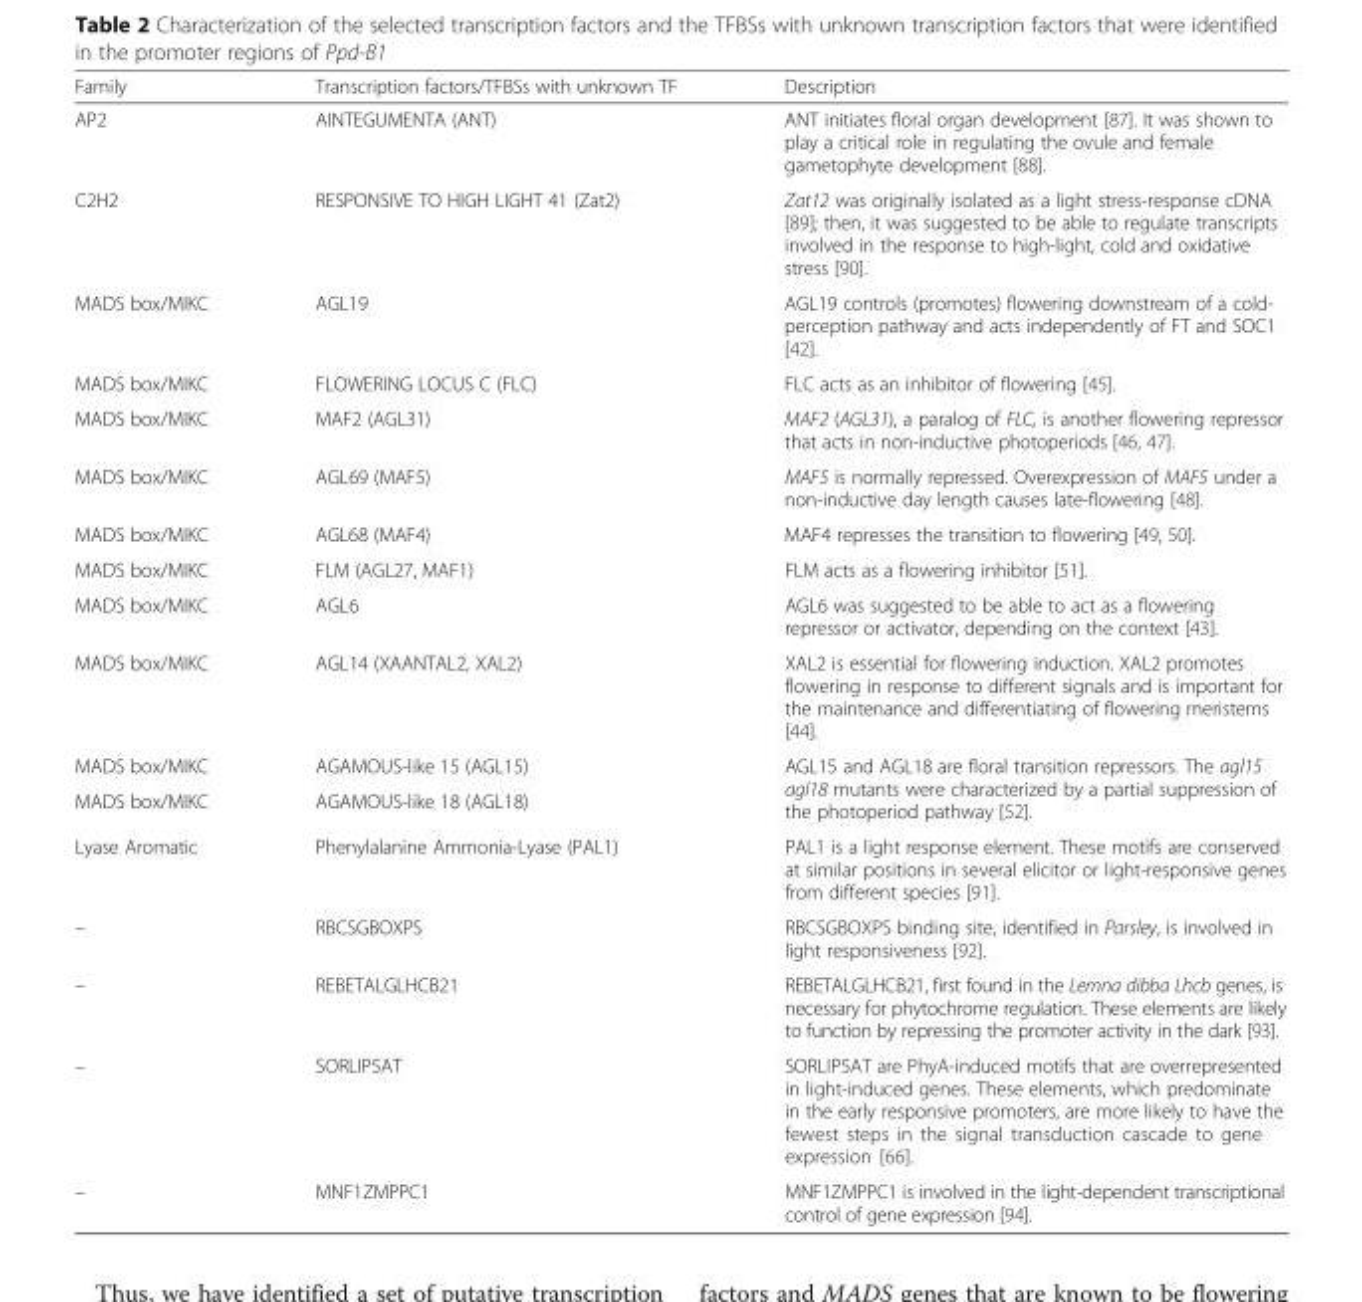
<table><thead><tr><td>Family</td><td>Transcription factors/TFBSs with unknown TF</td><td>Description</td></tr></thead><tbody><tr><td>AP2</td><td>AINTEGUMENTA (ANT)</td><td>ANT initiates floral organ development [87]. It was shown to play a critical role in regulating the ovule and female gametophyte development [88].</td></tr><tr><td>C2H2</td><td>RESPONSIVE TO HIGH LIGHT 41 (Zat2)</td><td>Zat12 was originally isolated as a light stress-response cDNA [89]; then, it was suggested to be able to regulate transcripts involved in the response to high-light, cold and oxidative stress [90].</td></tr><tr><td>MADS box/MIKC</td><td>AGL19</td><td>AGL19 controls (promotes) flowering downstream of a cold- perception pathway and acts independently of FT and SOC1 [42].</td></tr><tr><td>MADS box/MIKC</td><td>FLOWERING LOCUS C (FLC)</td><td>FLC acts as an inhibitor of flowering [45].</td></tr><tr><td>MADS box/MIKC</td><td>MAF2 (AGL31)</td><td>MAF2 (AGL31), a paralog of FLC, is another flowering repressor that acts in non-inductive photoperiods [46, 47].</td></tr><tr><td>MADS box/MIKC</td><td>AGL69 (MAF5)</td><td>MAF5 is normally repressed. Overexpression of MAF5 under a non-inductive day length causes late-flowering [48].</td></tr><tr><td>MADS box/MIKC</td><td>AGL68 (MAF4)</td><td>MAF4 represses the transition to flowering [49, 50].</td></tr><tr><td>MADS box/MIKC</td><td>FLM (AGL27, MAF1)</td><td>FLM acts as a flowering inhibitor [51].</td></tr><tr><td>MADS box/MIKC</td><td>AGL6</td><td>AGL6 was suggested to be able to act as a flowering repressor or activator, depending on the context [43].</td></tr><tr><td>MADS box/MIKC</td><td>AGL14 (XAANTAL2, XAL2)</td><td>XAL2 is essential for flowering induction. XAL2 promotes flowering in response to different signals and is important for the maintenance and differentiating of flowering meristems [44].</td></tr><tr><td>MADS box/MIKC</td><td>AGAMOUS-like 15 (AGL15)</td><td rowspan="2">AGL15 and AGL18 are floral transition repressors. The agl15 agl18 mutants were characterized by a partial suppression of the photoperiod pathway [52].</td></tr><tr><td>MADS box/MIKC</td><td>AGAMOUS-like 18 (AGL18)</td></tr><tr><td>Lyase Aromatic</td><td>Phenylalanine Ammonia-Lyase (PAL1)</td><td>PAL1 is a light response element. These motifs are conserved at similar positions in several elicitor or light-responsive genes from different species [91].</td></tr><tr><td>–</td><td>RBCSGBOXPS</td><td>RBCSGBOXPS binding site, identified in Parsley, is involved in light responsiveness [92].</td></tr><tr><td>–</td><td>REBETALGLHCB21</td><td>REBETALGLHCB21, first found in the Lemna dibba Lhcb genes, is necessary for phytochrome regulation. These elements are likely to function by repressing the promoter activity in the dark [93].</td></tr><tr><td>–</td><td>SORLIP5AT</td><td>SORLIP5AT are PhyA-induced motifs that are overrepresented in light-induced genes. These elements, which predominate in the early responsive promoters, are more likely to have the fewest steps in the signal transduction cascade to gene expression [66].</td></tr><tr><td>–</td><td>MNF1ZMPPC1</td><td>MNF1ZMPPC1 is involved in the light-dependent transcriptional control of gene expression [94].</td></tr></tbody></table>